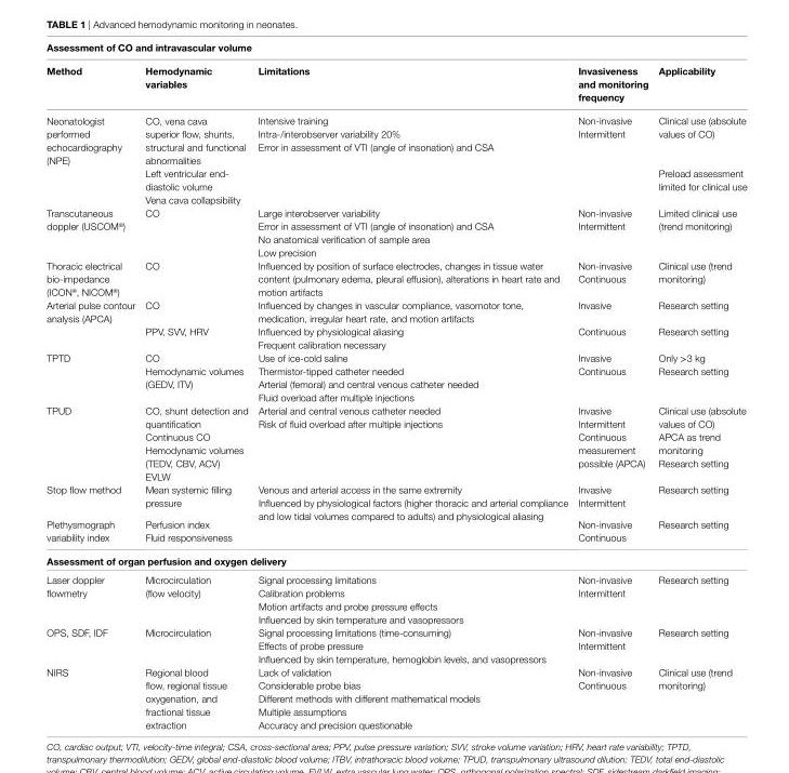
<table><thead><tr><td colspan="5">Assessment of CO and intravascular volume</td></tr><tr><td>Method</td><td>Hemodynamic variables</td><td>Limitations</td><td>invasiveness and monitoring frequency</td><td>Applicability</td></tr></thead><tbody><tr><td>Neonatologist performed echocardiography (NPE)</td><td>CO, vena cava superior flow, shunts, structural and functional abnormalities Left ventricular end- diastolic volume Vena cava collapsibility</td><td>Intensive training Intra-/interobserver variability 20% Error in assessment of VTI (angle of insonation) and CSA</td><td>Non-invasive Intermittent</td><td>Clinical use (absolute values of CO) Preload assessment limited for clinical use</td></tr><tr><td>Transcutaneous doppler (USCOM<sup>®</sup>)</td><td>CO</td><td>Large interobserver variability Error in assessment of VTI (angle of insonation) and CSA No anatomical verification of sample area Low precision</td><td>Non-invasive Intermittent</td><td>Limited clinical use (trend monitoring)</td></tr><tr><td>Thoracic electrical bio-impedance (ICON<sup>®</sup>, NICOM<sup>®</sup>)</td><td>CO</td><td>Influenced by position of surface electrodes, changes in tissue water content (pulmonary edema, pleural effusion), alterations in heart rate and motion artifacts</td><td>Non-invasive Continuous</td><td>Clinical use (trend monitoring)</td></tr><tr><td rowspan="2">Arterial pulse contour analysis (APCA)</td><td>CO</td><td>Influenced by changes in vascular compliance, vasomotor tone, medication, irregular heart rate, and motion artifacts</td><td>Invasive</td><td>Research setting</td></tr><tr><td>PPV, SVV, HRV</td><td>Influenced by physiological aliasing Frequent calibration necessary</td><td>Continuous</td><td>Research setting</td></tr><tr><td>TPTD</td><td>CO Hemodynamic volumes (GEDV, ITV)</td><td>Use of ice-cold saline Thermistor-tipped catheter needed Arterial (femoral) and central venous catheter needed Fluid overload after multiple injections</td><td>Invasive Continuous</td><td>Only &gt;3 kg Research setting</td></tr><tr><td>TPUD</td><td>CO, shunt detection and quantification Continuous CO Hemodynamic volumes (TEDV, CBV, ACV) EVLW</td><td>Arterial and central venous catheter needed Risk of fluid overload after multiple injections</td><td>Invasive Intermittent Continuous measurement possible (APCA)</td><td>Clinical use (absolute values of CO) APCA as trend monitoring Research setting</td></tr><tr><td>Stop flow method</td><td>Mean systemic filling pressure</td><td rowspan="2">Venous and arterial access in the same extremity Influenced by physiological factors (higher thoracic and arterial compliance and low tidal volumes compared to adults) and physiological aliasing</td><td>Invasive Intermittent</td><td>Research setting</td></tr><tr><td>Plethysmograph variability index</td><td>Perfusion index Fluid responsiveness</td><td>Non-invasive Continuous</td><td>Research setting</td></tr><tr><td colspan="5">Assessment of organ perfusion and oxygen delivery</td></tr><tr><td>Laser doppler flowmetry</td><td>Microcirculation (flow velocity)</td><td>Signal processing limitations Calibration problems Motion artifacts and probe pressure effects Influenced by skin temperature and vasopressors</td><td>Non-invasive Intermittent</td><td>Research setting</td></tr><tr><td>OPS, SDF, IDF</td><td>Microcirculation</td><td>Signal processing limitations (time-consuming) Effects of probe pressure Influenced by skin temperature, hemoglobin levels, and vasopressors</td><td>Non-invasive Intermittent</td><td>Research setting</td></tr><tr><td>NIRS</td><td>Regional blood flow, regional tissue oxygenation, and fractional tissue extraction</td><td>Lack of validation Considerable probe bias Different methods with different mathematical models Multiple assumptions Accuracy and precision questionable</td><td>Non-invasive Continuous</td><td>Clinical use (trend monitoring)</td></tr></tbody></table>